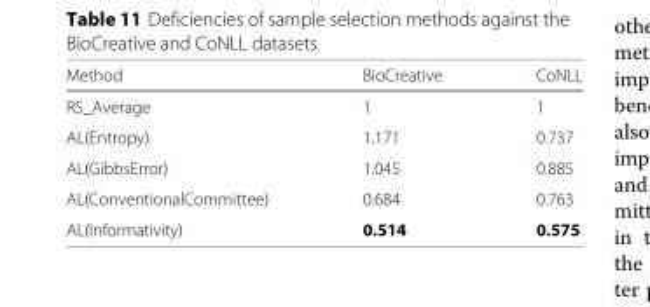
<table><thead><tr><td>Method</td><td>BioCreative</td><td>CoNLL</td></tr></thead><tbody><tr><td>RS_Average</td><td>1</td><td>1</td></tr><tr><td>AL(Entropy)</td><td>1.171</td><td>0.737</td></tr><tr><td>AL(GibbsError)</td><td>1.045</td><td>0.885</td></tr><tr><td>AL(ConventionalCommittee)</td><td>0.684</td><td>0.763</td></tr><tr><td>AL(Informativity)</td><td>0.514</td><td>0.575</td></tr></tbody></table>